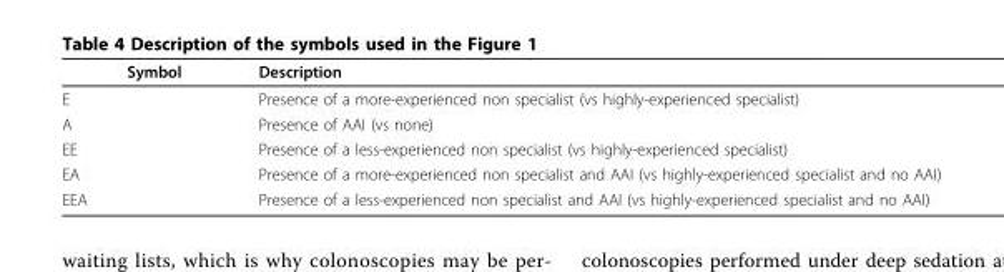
<table><thead><tr><td>Symbol</td><td>Description</td></tr></thead><tbody><tr><td>E</td><td>Presence of a more-experienced non specialist (vs highly-experienced specialist)</td></tr><tr><td>A</td><td>Presence of AAI (vs none)</td></tr><tr><td>EE</td><td>Presence of a less-experienced non specialist (vs highly-experienced specialist)</td></tr><tr><td>EA</td><td>Presence of a more-experienced non specialist and AAI (vs highly-experienced specialist and no AAI)</td></tr><tr><td>EEA</td><td>Presence of a less-experienced non specialist and AAI (vs highly-experienced specialist and no AAI)</td></tr></tbody></table>